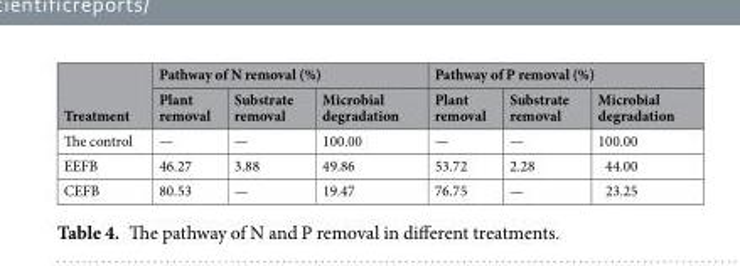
<table><thead><tr><td rowspan="2">Treatment</td><td colspan="3">Pathway of N removal (%)</td><td colspan="3">Pathway of P removal (%)</td></tr><tr><td>Plant removal</td><td>Substrate removal</td><td>Microbial degradation</td><td>Plant removal</td><td>Substrate removal</td><td>Microbial degradation</td></tr></thead><tbody><tr><td>The control</td><td>—</td><td>—</td><td>100.00</td><td>—</td><td>—</td><td>100.00</td></tr><tr><td>EEFB</td><td>46.27</td><td>3.88</td><td>49.86</td><td>53.72</td><td>2.28</td><td>44.00</td></tr><tr><td>CEFB</td><td>80.53</td><td>—</td><td>19.47</td><td>76.75</td><td>—</td><td>23.25</td></tr></tbody></table>